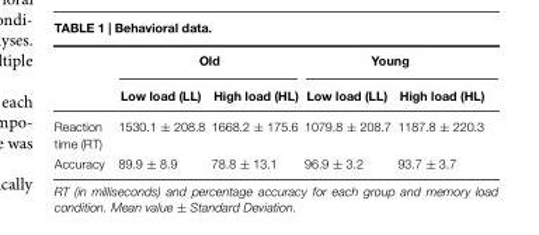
<table><thead><tr><td rowspan="2"></td><td colspan="2">Old</td><td colspan="2">Young</td></tr><tr><td>Low load (LL)</td><td>High load (HL)</td><td>Low load (LL)</td><td>High load (HL)</td></tr></thead><tbody><tr><td>Reaction time (RT)</td><td>1530.1 ± 208.8</td><td>1668.2 ± 175.6</td><td>1079.8 ± 208.7</td><td>1187.8 ± 220.3</td></tr><tr><td>Accuracy</td><td>89.9 ± 8.9</td><td>78.8 ± 13.1</td><td>96.9 ± 3.2</td><td>93.7 ± 3.7</td></tr></tbody></table>